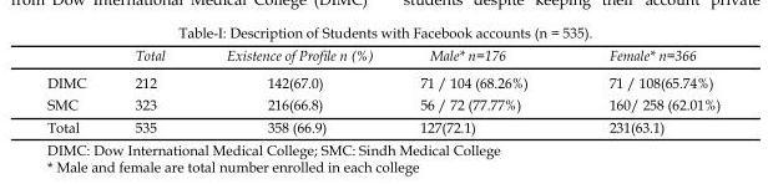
<table><thead><tr><td></td><td>Total</td><td>Existence of Profile n (%)</td><td>Male* n=176</td><td>Female* n=366</td></tr></thead><tbody><tr><td>DIMC</td><td>212</td><td>142(67.0)</td><td>71 / 104 (68.26%)</td><td>71 / 108(65.74%)</td></tr><tr><td>SMC</td><td>323</td><td>216(66.8)</td><td>56 / 72 (77.77%)</td><td>160/ 258 (62.01%)</td></tr><tr><td>Total</td><td>535</td><td>358 (66.9)</td><td>127(72.1)</td><td>231(63.1)</td></tr></tbody></table>